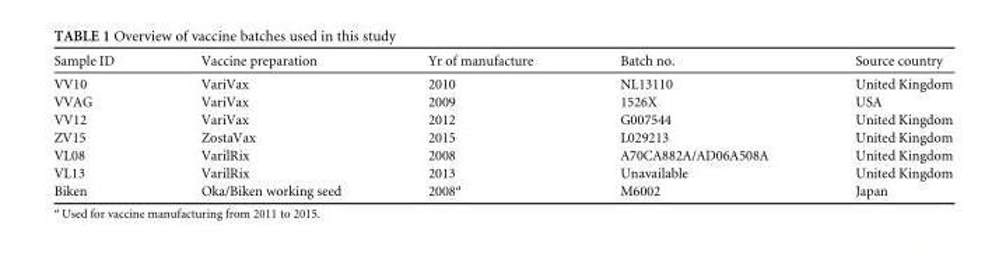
<table><thead><tr><td>Sample ID</td><td>Vaccine preparation</td><td>Yr of manufacture</td><td>Batch no.</td><td>Source country</td></tr></thead><tbody><tr><td>VV10</td><td>VariVax</td><td>2010</td><td>NL13110</td><td>United Kingdom</td></tr><tr><td>VVAG</td><td>VariVax</td><td>2009</td><td>1526X</td><td>USA</td></tr><tr><td>VV12</td><td>VariVax</td><td>2012</td><td>G007544</td><td>United Kingdom</td></tr><tr><td>ZV15</td><td>ZostaVax</td><td>2015</td><td>L029213</td><td>United Kingdom</td></tr><tr><td>VL08</td><td>VarilRix</td><td>2008</td><td>A70CA882A/AD06A508A</td><td>United Kingdom</td></tr><tr><td>VL13</td><td>VarilRix</td><td>2013</td><td>Unavailable</td><td>United Kingdom</td></tr><tr><td>Biken</td><td>Oka/Biken working seed</td><td>2008<sup>a</sup></td><td>M6002</td><td>Japan</td></tr></tbody></table>